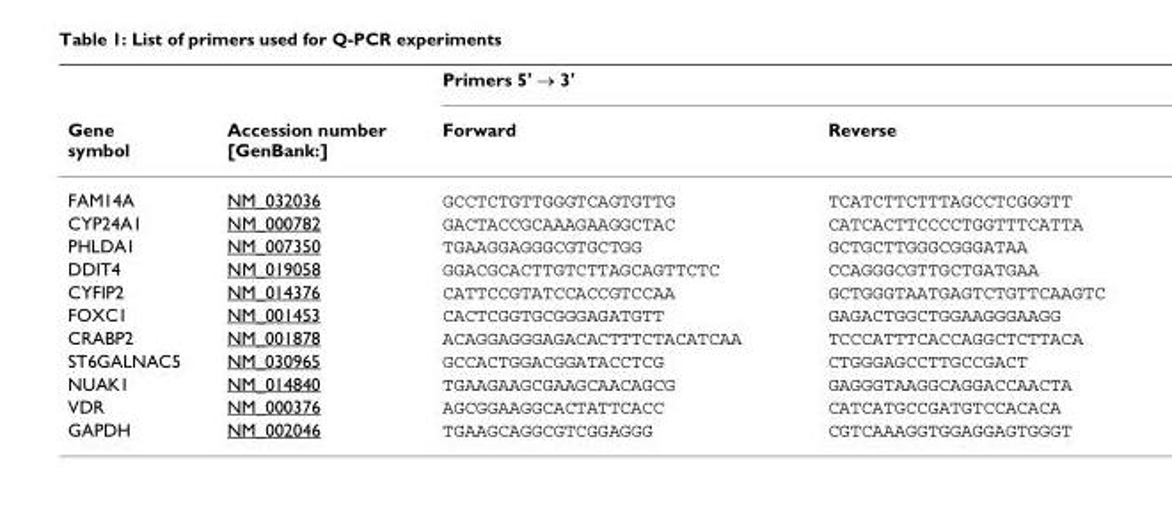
<table><thead><tr><td rowspan="2">Gene symbol</td><td rowspan="2">Accession number [GenBank:]</td><td rowspan="2">Primers 5&#x27; → 3&#x27; Forward</td><td rowspan="2">Reverse</td></tr><tr></tr></thead><tbody><tr><td>FAM14A</td><td>NM_032036</td><td>GCCTCTGTTGGGTCAGTGTTG</td><td>TCATCTTCTTTAGCCTCGGGTT</td></tr><tr><td>CYP24A1</td><td>NM_000782</td><td>GACTACCGCAAAGAAGGCTAC</td><td>CATCACTTCCCCTGGTTTCATTA</td></tr><tr><td>PHLDA1</td><td>NM_007350</td><td>TGAAGGAGGGCGTGCTGG</td><td>GCTGCTTGGGCGGGATAA</td></tr><tr><td>DDIT4</td><td>NM_019058</td><td>GGACGCACTTGTCTTAGCAGTTCTC</td><td>CCAGGGCGTTGCTGATGAA</td></tr><tr><td>CYFIP2</td><td>NM_014376</td><td>CATTCCGTATCCACCGTCCAA</td><td>GCTGGGTAATGAGTCTGTTCAAGTC</td></tr><tr><td>FOXC1</td><td>NM_001453</td><td>CACTCGGTGCGGGAGATGTT</td><td>GAGACTGGCTGGAAGGGAAGG</td></tr><tr><td>CRABP2</td><td>NM_001878</td><td>ACAGGAGGGAGACACTTTCTACATCAA</td><td>TCCCATTTCACCAGGCTCTTACA</td></tr><tr><td>ST6GALNAC5</td><td>NM_030965</td><td>GCCACTGGACGGATACCTCG</td><td>CTGGGAGCCTTGCCGACT</td></tr><tr><td>NUAK1</td><td>NM_014840</td><td>TGAAGAAGCGAAGCAACAGCG</td><td>GAGGGTAAGGCAGGACCAACTA</td></tr><tr><td>VDR</td><td>NM_000376</td><td>AGCGGAAGGCACTATTCACC</td><td>CATCATGCCGATGTCCACACA</td></tr><tr><td>GAPDH</td><td>NM_002046</td><td>TGAAGCAGGCGTCGGAGGG</td><td>CGTCAAAGGTGGAGGAGTGGGT</td></tr></tbody></table>